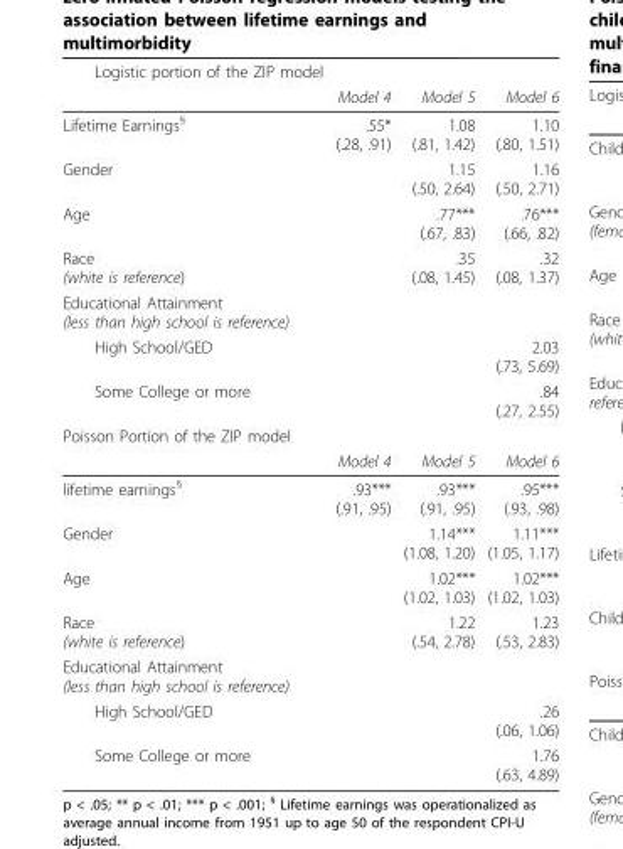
<table><thead><tr><td rowspan="2">Logistic portion of the ZIP model</td><td rowspan="2">Model 4</td><td rowspan="2">Model 5</td><td rowspan="2">Model 6</td></tr><tr></tr></thead><tbody><tr><td>Lifetime Earnings<sup>§</sup></td><td>.55* (.28, .91)</td><td>1.08 (.81, 1.42)</td><td>1.10 (.80, 1.51)</td></tr><tr><td>Gender</td><td></td><td>1.15 (.50, 2.64)</td><td>1.16 (.50, 2.71)</td></tr><tr><td>Age</td><td></td><td>.77*** (.67, .83)</td><td>.76*** (.66, .82)</td></tr><tr><td>Race (white is reference)</td><td></td><td>.35 (.08, 1.45)</td><td>.32 (.08, 1.37)</td></tr><tr><td colspan="4">Educational Attainment (less than high school is reference)</td></tr><tr><td>High School/GED</td><td></td><td></td><td>2.03 (.73, 5.69)</td></tr><tr><td>Some College or more</td><td></td><td></td><td>.84 (.27, 2.55)</td></tr><tr><td colspan="4">Poisson Portion of the ZIP model</td></tr><tr><td></td><td>Model 4</td><td>Model 5</td><td>Model 6</td></tr><tr><td>lifetime earnings<sup>§</sup></td><td>.93*** (.91, .95)</td><td>.93*** (.91, .95)</td><td>.95*** (.93, .98)</td></tr><tr><td>Gender</td><td></td><td>1.14*** (1.08, 1.20)</td><td>1.11*** (1.05, 1.17)</td></tr><tr><td>Age</td><td></td><td>1.02*** (1.02, 1.03)</td><td>1.02*** (1.02, 1.03)</td></tr><tr><td>Race (white is reference)</td><td></td><td>1.22 (.54, 2.78)</td><td>1.23 (.53, 2.83)</td></tr><tr><td colspan="4">Educational Attainment (less than high school is reference)</td></tr><tr><td>High School/GED</td><td></td><td></td><td>.26 (.06, 1.06)</td></tr><tr><td>Some College or more</td><td></td><td></td><td>1.76 (.63, 4.89)</td></tr></tbody></table>